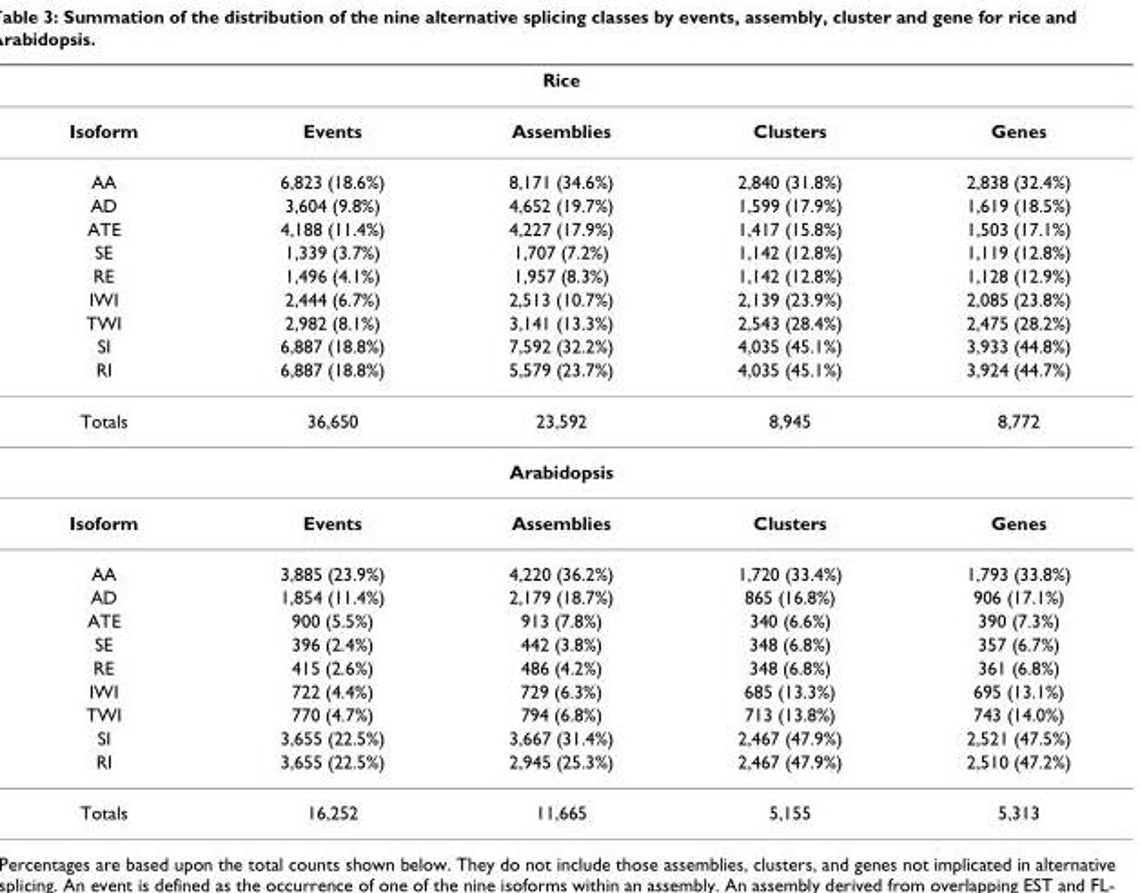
<table><thead><tr><td colspan="5">Rice</td></tr><tr><td>Isoform</td><td>Events</td><td>Assemblies</td><td>Clusters</td><td>Genes</td></tr></thead><tbody><tr><td>AA</td><td>6,823 (18.6%)</td><td>8,171 (34.6%)</td><td>2,840 (31.8%)</td><td>2,838 (32.4%)</td></tr><tr><td>AD</td><td>3,604 (9.8%)</td><td>4,652 (19.7%)</td><td>1,599 (17.9%)</td><td>1,619 (18.5%)</td></tr><tr><td>ATE</td><td>4,188 (11.4%)</td><td>4,227 (17.9%)</td><td>1,417 (15.8%)</td><td>1,503 (17.1%)</td></tr><tr><td>SE</td><td>1,339 (3.7%)</td><td>1,707 (7.2%)</td><td>1,142 (12.8%)</td><td>1,119 (12.8%)</td></tr><tr><td>RE</td><td>1,496 (4.1%)</td><td>1,957 (8.3%)</td><td>1,142 (12.8%)</td><td>1,128 (12.9%)</td></tr><tr><td>IWI</td><td>2,444 (6.7%)</td><td>2,513 (10.7%)</td><td>2,139 (23.9%)</td><td>2,085 (23.8%)</td></tr><tr><td>TWI</td><td>2,982 (8.1%)</td><td>3,141 (13.3%)</td><td>2,543 (28.4%)</td><td>2,475 (28.2%)</td></tr><tr><td>SI</td><td>6,887 (18.8%)</td><td>7,592 (32.2%)</td><td>4,035 (45.1%)</td><td>3,933 (44.8%)</td></tr><tr><td>RI</td><td>6,887 (18.8%)</td><td>5,579 (23.7%)</td><td>4,035 (45.1%)</td><td>3,924 (44.7%)</td></tr><tr><td>Totals</td><td>36,650</td><td>23,592</td><td>8,945</td><td>8,772</td></tr><tr><td colspan="5">Arabidopsis</td></tr><tr><td>Isoform</td><td>Events</td><td>Assemblies</td><td>Clusters</td><td>Genes</td></tr><tr><td>AA</td><td>3,885 (23.9%)</td><td>4,220 (36.2%)</td><td>1,720 (33.4%)</td><td>1,793 (33.8%)</td></tr><tr><td>AD</td><td>1,854 (11.4%)</td><td>2,179 (18.7%)</td><td>865 (16.8%)</td><td>906 (17.1%)</td></tr><tr><td>ATE</td><td>900 (5.5%)</td><td>913 (7.8%)</td><td>340 (6.6%)</td><td>390 (7.3%)</td></tr><tr><td>SE</td><td>396 (2.4%)</td><td>442 (3.8%)</td><td>348 (6.8%)</td><td>357 (6.7%)</td></tr><tr><td>RE</td><td>415 (2.6%)</td><td>486 (4.2%)</td><td>348 (6.8%)</td><td>361 (6.8%)</td></tr><tr><td>IWI</td><td>722 (4.4%)</td><td>729 (6.3%)</td><td>685 (13.3%)</td><td>695 (13.1%)</td></tr><tr><td>TWI</td><td>770 (4.7%)</td><td>794 (6.8%)</td><td>713 (13.8%)</td><td>743 (14.0%)</td></tr><tr><td>SI</td><td>3,655 (22.5%)</td><td>3,667 (31.4%)</td><td>2,467 (47.9%)</td><td>2,521 (47.5%)</td></tr><tr><td>RI</td><td>3,655 (22.5%)</td><td>2,945 (25.3%)</td><td>2,467 (47.9%)</td><td>2,510 (47.2%)</td></tr><tr><td>Totals</td><td>16,252</td><td>11,665</td><td>5,155</td><td>5,313</td></tr></tbody></table>